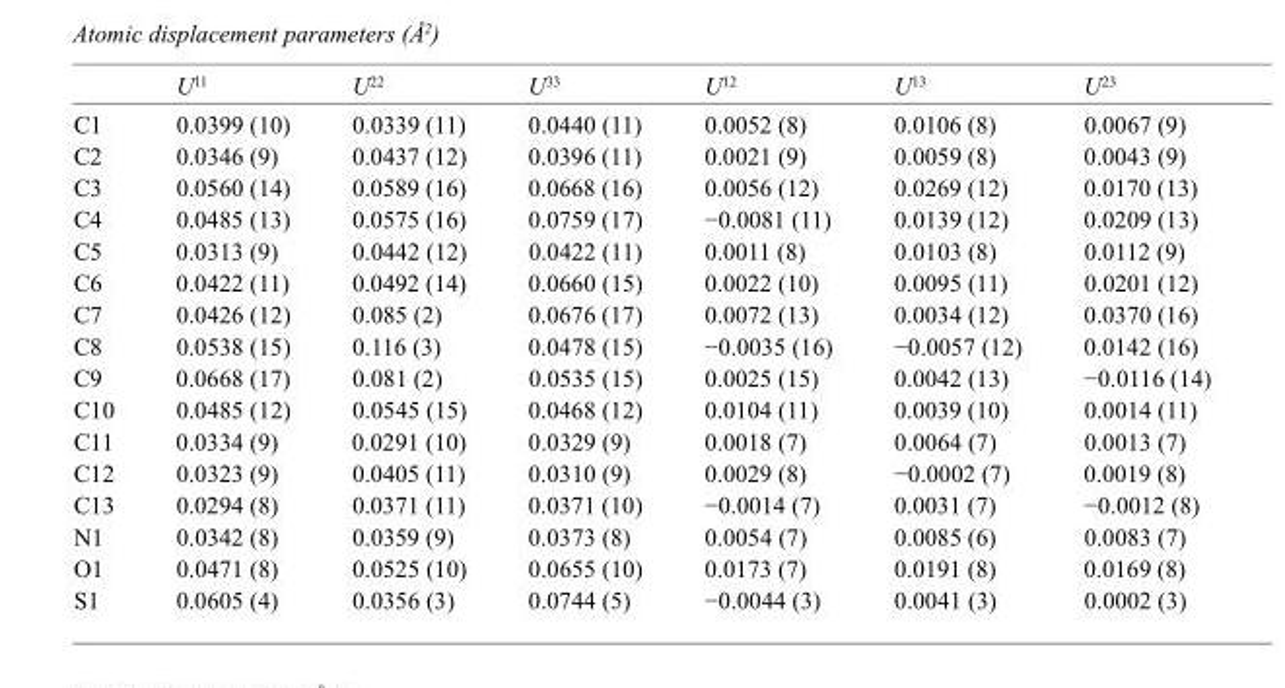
<table><thead><tr><td></td><td>U<sup>11</sup></td><td>U<sup>22</sup></td><td>U<sup>33</sup></td><td>U<sup>12</sup></td><td>U<sup>13</sup></td><td>U<sup>23</sup></td></tr></thead><tbody><tr><td>C1</td><td>0.0399 (10)</td><td>0.0339 (11)</td><td>0.0440 (11)</td><td>0.0052 (8)</td><td>0.0106 (8)</td><td>0.0067 (9)</td></tr><tr><td>C2</td><td>0.0346 (9)</td><td>0.0437 (12)</td><td>0.0396 (11)</td><td>0.0021 (9)</td><td>0.0059 (8)</td><td>0.0043 (9)</td></tr><tr><td>C3</td><td>0.0560 (14)</td><td>0.0589 (16)</td><td>0.0668 (16)</td><td>0.0056 (12)</td><td>0.0269 (12)</td><td>0.0170 (13)</td></tr><tr><td>C4</td><td>0.0485 (13)</td><td>0.0575 (16)</td><td>0.0759 (17)</td><td>−0.0081 (11)</td><td>0.0139 (12)</td><td>0.0209 (13)</td></tr><tr><td>C5</td><td>0.0313 (9)</td><td>0.0442 (12)</td><td>0.0422 (11)</td><td>0.0011 (8)</td><td>0.0103 (8)</td><td>0.0112 (9)</td></tr><tr><td>C6</td><td>0.0422 (11)</td><td>0.0492 (14)</td><td>0.0660 (15)</td><td>0.0022 (10)</td><td>0.0095 (11)</td><td>0.0201 (12)</td></tr><tr><td>C7</td><td>0.0426 (12)</td><td>0.085 (2)</td><td>0.0676 (17)</td><td>0.0072 (13)</td><td>0.0034 (12)</td><td>0.0370 (16)</td></tr><tr><td>C8</td><td>0.0538 (15)</td><td>0.116 (3)</td><td>0.0478 (15)</td><td>−0.0035 (16)</td><td>−0.0057 (12)</td><td>0.0142 (16)</td></tr><tr><td>C9</td><td>0.0668 (17)</td><td>0.081 (2)</td><td>0.0535 (15)</td><td>0.0025 (15)</td><td>0.0042 (13)</td><td>−0.0116 (14)</td></tr><tr><td>C10</td><td>0.0485 (12)</td><td>0.0545 (15)</td><td>0.0468 (12)</td><td>0.0104 (11)</td><td>0.0039 (10)</td><td>0.0014 (11)</td></tr><tr><td>C11</td><td>0.0334 (9)</td><td>0.0291 (10)</td><td>0.0329 (9)</td><td>0.0018 (7)</td><td>0.0064 (7)</td><td>0.0013 (7)</td></tr><tr><td>C12</td><td>0.0323 (9)</td><td>0.0405 (11)</td><td>0.0310 (9)</td><td>0.0029 (8)</td><td>−0.0002 (7)</td><td>0.0019 (8)</td></tr><tr><td>C13</td><td>0.0294 (8)</td><td>0.0371 (11)</td><td>0.0371 (10)</td><td>−0.0014 (7)</td><td>0.0031 (7)</td><td>−0.0012 (8)</td></tr><tr><td>N1</td><td>0.0342 (8)</td><td>0.0359 (9)</td><td>0.0373 (8)</td><td>0.0054 (7)</td><td>0.0085 (6)</td><td>0.0083 (7)</td></tr><tr><td>O1</td><td>0.0471 (8)</td><td>0.0525 (10)</td><td>0.0655 (10)</td><td>0.0173 (7)</td><td>0.0191 (8)</td><td>0.0169 (8)</td></tr><tr><td>S1</td><td>0.0605 (4)</td><td>0.0356 (3)</td><td>0.0744 (5)</td><td>−0.0044 (3)</td><td>0.0041 (3)</td><td>0.0002 (3)</td></tr></tbody></table>